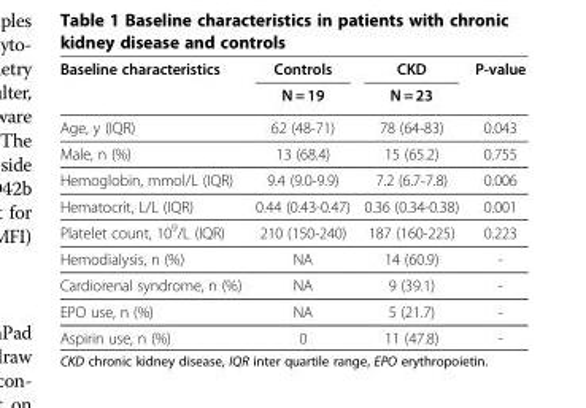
<table><thead><tr><td rowspan="2">Baseline characteristics</td><td rowspan="2">Controls N = 19</td><td rowspan="2">CKD N = 23</td><td rowspan="2">P-value</td></tr><tr></tr></thead><tbody><tr><td>Age, y (IQR)</td><td>62 (48-71)</td><td>78 (64-83)</td><td>0.043</td></tr><tr><td>Male, n (%)</td><td>13 (68.4)</td><td>15 (65.2)</td><td>0.755</td></tr><tr><td>Hemoglobin, mmol/L (IQR)</td><td>9.4 (9.0-9.9)</td><td>7.2 (6.7-7.8)</td><td>0.006</td></tr><tr><td>Hematocrit, L/L (IQR)</td><td>0.44 (0.43-0.47)</td><td>0.36 (0.34-0.38)</td><td>0.001</td></tr><tr><td>Platelet count, 10<sup>9</sup>/L (IQR)</td><td>210 (150-240)</td><td>187 (160-225)</td><td>0.223</td></tr><tr><td>Hemodialysis, n (%)</td><td>NA</td><td>14 (60.9)</td><td>-</td></tr><tr><td>Cardiorenal syndrome, n (%)</td><td>NA</td><td>9 (39.1)</td><td>-</td></tr><tr><td>EPO use, n (%)</td><td>NA</td><td>5 (21.7)</td><td>-</td></tr><tr><td>Aspirin use, n (%)</td><td>0</td><td>11 (47.8)</td><td>-</td></tr></tbody></table>